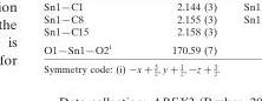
<table><tbody><tr><td>O1—Sn1—O2<sup>i</sup></td><td>170.59 (7)</td></tr></tbody></table>